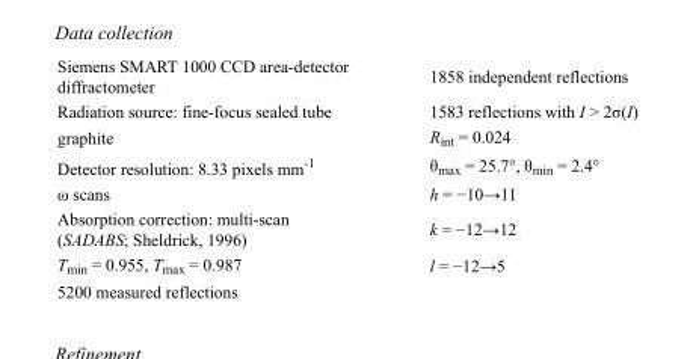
<table><tbody><tr><td>Siemens SMART 1000 CCD area-detector diffractometer</td><td>1858 independent reflections</td></tr><tr><td>Radiation source: fine-focus sealed tube</td><td>1583 reflections with I &gt; 2σ(I)</td></tr><tr><td>graphite</td><td>R<sub>int</sub> = 0.024</td></tr><tr><td>Detector resolution: 8.33 pixels mm<sup>-1</sup></td><td>θ<sub>max</sub> = 25.7°, θ<sub>min</sub> = 2.4°</td></tr><tr><td>ω scans</td><td>h = −10→11</td></tr><tr><td>Absorption correction: multi-scan (SADABS; Sheldrick, 1996)</td><td>k = −12→12</td></tr><tr><td>T<sub>min</sub> = 0.955, T<sub>max</sub> = 0.987</td><td>l = −12→5</td></tr><tr><td>5200 measured reflections</td><td></td></tr></tbody></table>